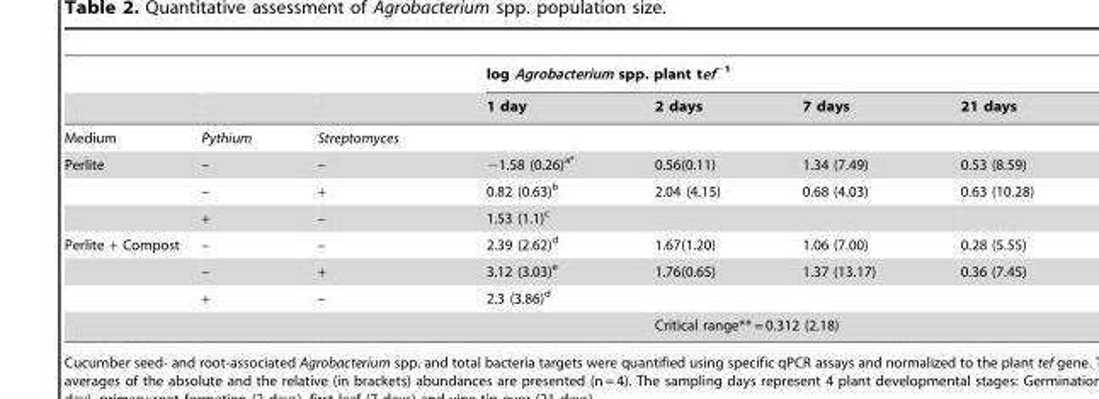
<table><thead><tr><td rowspan="2"></td><td rowspan="2"></td><td rowspan="2"></td><td colspan="4">log Agrobacterium spp. plant tef<sup>−1</sup></td></tr><tr><td>1 day</td><td>2 days</td><td>7 days</td><td>21 days</td></tr></thead><tbody><tr><td>Medium</td><td>Pythium</td><td>Streptomyces</td><td colspan="4"></td></tr><tr><td rowspan="3">Perlite</td><td>–</td><td>–</td><td>−1.58 (0.26)<sup>a</sup>*</td><td>0.56(0.11)</td><td>1.34 (7.49)</td><td>0.53 (8.59)</td></tr><tr><td>–</td><td>+</td><td>0.82 (0.63)<sup>b</sup></td><td>2.04 (4.15)</td><td>0.68 (4.03)</td><td>0.63 (10.28)</td></tr><tr><td>+</td><td>–</td><td>1.53 (1.1)<sup>c</sup></td><td></td><td></td><td></td></tr><tr><td rowspan="3">Perlite + Compost</td><td>–</td><td>–</td><td>2.39 (2.62)<sup>d</sup></td><td>1.67(1.20)</td><td>1.06 (7.00)</td><td>0.28 (5.55)</td></tr><tr><td>–</td><td>+</td><td>3.12 (3.03)<sup>e</sup></td><td>1.76(0.65)</td><td>1.37 (13.17)</td><td>0.36 (7.45)</td></tr><tr><td>+</td><td>–</td><td>2.3 (3.86)<sup>d</sup></td><td></td><td></td><td></td></tr><tr><td colspan="4"></td><td colspan="3">Critical range** = 0.312 (2.18)</td></tr></tbody></table>